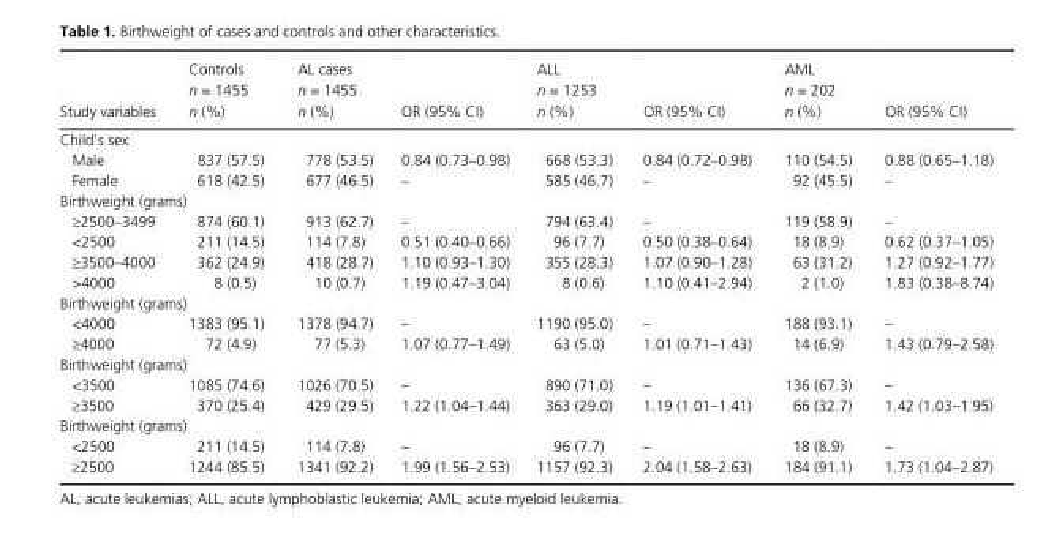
<table><thead><tr><td>Study variables</td><td>Controls n = 1455 n (%)</td><td>AL cases n = 1455 n (%)</td><td>OR (95% CI)</td><td>ALL n = 1253 n (%)</td><td>OR (95% CI)</td><td>AML n = 202 n (%)</td><td>OR (95% CI)</td></tr></thead><tbody><tr><td colspan="8">Child’s sex</td></tr><tr><td>Male</td><td>837 (57.5)</td><td>778 (53.5)</td><td>0.84 (0.73–0.98)</td><td>668 (53.3)</td><td>0.84 (0.72–0.98)</td><td>110 (54.5)</td><td>0.88 (0.65–1.18)</td></tr><tr><td>Female</td><td>618 (42.5)</td><td>677 (46.5)</td><td>–</td><td>585 (46.7)</td><td>–</td><td>92 (45.5)</td><td>–</td></tr><tr><td colspan="8">Birthweight (grams)</td></tr><tr><td>≥2500–3499</td><td>874 (60.1)</td><td>913 (62.7)</td><td>–</td><td>794 (63.4)</td><td>–</td><td>119 (58.9)</td><td>–</td></tr><tr><td>&lt;2500</td><td>211 (14.5)</td><td>114 (7.8)</td><td>0.51 (0.40–0.66)</td><td>96 (7.7)</td><td>0.50 (0.38–0.64)</td><td>18 (8.9)</td><td>0.62 (0.37–1.05)</td></tr><tr><td>≥3500–4000</td><td>362 (24.9)</td><td>418 (28.7)</td><td>1.10 (0.93–1.30)</td><td>355 (28.3)</td><td>1.07 (0.90–1.28)</td><td>63 (31.2)</td><td>1.27 (0.92–1.77)</td></tr><tr><td>&gt;4000</td><td>8 (0.5)</td><td>10 (0.7)</td><td>1.19 (0.47–3.04)</td><td>8 (0.6)</td><td>1.10 (0.41–2.94)</td><td>2 (1.0)</td><td>1.83 (0.38–8.74)</td></tr><tr><td colspan="8">Birthweight (grams)</td></tr><tr><td>&lt;4000</td><td>1383 (95.1)</td><td>1378 (94.7)</td><td>–</td><td>1190 (95.0)</td><td>–</td><td>188 (93.1)</td><td>–</td></tr><tr><td>≥4000</td><td>72 (4.9)</td><td>77 (5.3)</td><td>1.07 (0.77–1.49)</td><td>63 (5.0)</td><td>1.01 (0.71–1.43)</td><td>14 (6.9)</td><td>1.43 (0.79–2.58)</td></tr><tr><td colspan="8">Birthweight (grams)</td></tr><tr><td>&lt;3500</td><td>1085 (74.6)</td><td>1026 (70.5)</td><td>–</td><td>890 (71.0)</td><td>–</td><td>136 (67.3)</td><td>–</td></tr><tr><td>≥3500</td><td>370 (25.4)</td><td>429 (29.5)</td><td>1.22 (1.04–1.44)</td><td>363 (29.0)</td><td>1.19 (1.01–1.41)</td><td>66 (32.7)</td><td>1.42 (1.03–1.95)</td></tr><tr><td colspan="8">Birthweight (grams)</td></tr><tr><td>&lt;2500</td><td>211 (14.5)</td><td>114 (7.8)</td><td>–</td><td>96 (7.7)</td><td>–</td><td>18 (8.9)</td><td>–</td></tr><tr><td>≥2500</td><td>1244 (85.5)</td><td>1341 (92.2)</td><td>1.99 (1.56–2.53)</td><td>1157 (92.3)</td><td>2.04 (1.58–2.63)</td><td>184 (91.1)</td><td>1.73 (1.04–2.87)</td></tr></tbody></table>